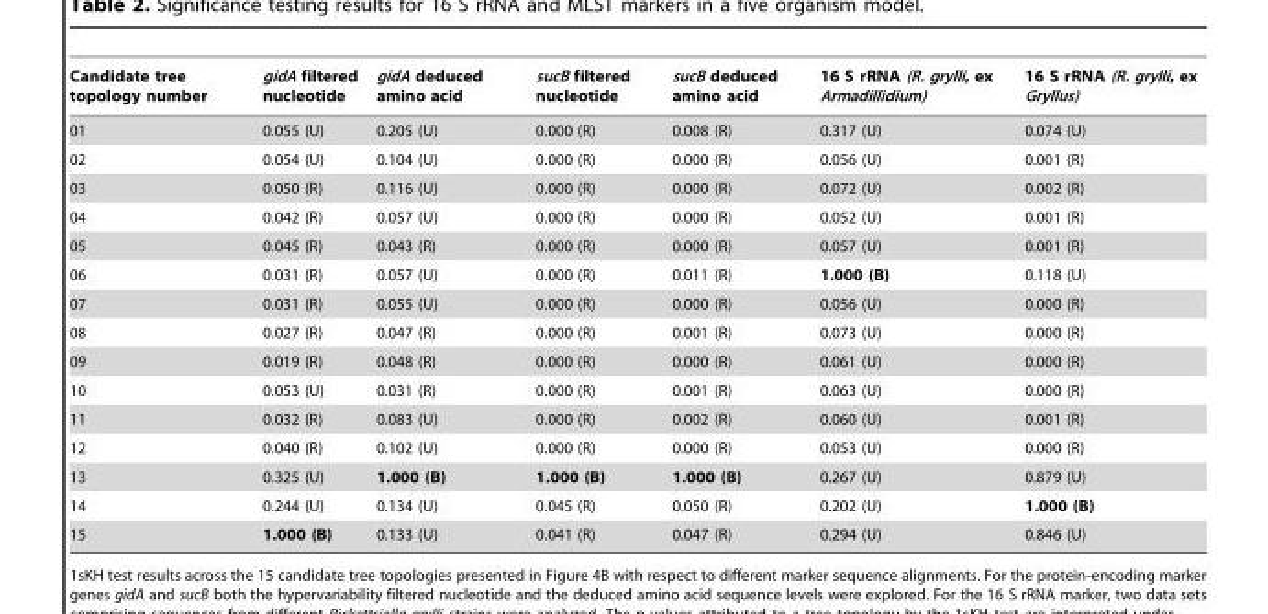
<table><thead><tr><td>Candidate tree topology number</td><td>gidA filtered nucleotide</td><td>gidA deduced amino acid</td><td>sucB filtered nucleotide</td><td>sucB deduced amino acid</td><td>16 S rRNA (R. grylli, ex Armadillidium)</td><td>16 S rRNA (R. grylli, ex Gryllus)</td></tr></thead><tbody><tr><td>01</td><td>0.055 (U)</td><td>0.205 (U)</td><td>0.000 (R)</td><td>0.008 (R)</td><td>0.317 (U)</td><td>0.074 (U)</td></tr><tr><td>02</td><td>0.054 (U)</td><td>0.104 (U)</td><td>0.000 (R)</td><td>0.000 (R)</td><td>0.056 (U)</td><td>0.001 (R)</td></tr><tr><td>03</td><td>0.050 (R)</td><td>0.116 (U)</td><td>0.000 (R)</td><td>0.000 (R)</td><td>0.072 (U)</td><td>0.002 (R)</td></tr><tr><td>04</td><td>0.042 (R)</td><td>0.057 (U)</td><td>0.000 (R)</td><td>0.000 (R)</td><td>0.052 (U)</td><td>0.001 (R)</td></tr><tr><td>05</td><td>0.045 (R)</td><td>0.043 (R)</td><td>0.000 (R)</td><td>0.000 (R)</td><td>0.057 (U)</td><td>0.001 (R)</td></tr><tr><td>06</td><td>0.031 (R)</td><td>0.057 (U)</td><td>0.000 (R)</td><td>0.011 (R)</td><td>1.000 (B)</td><td>0.118 (U)</td></tr><tr><td>07</td><td>0.031 (R)</td><td>0.055 (U)</td><td>0.000 (R)</td><td>0.000 (R)</td><td>0.056 (U)</td><td>0.000 (R)</td></tr><tr><td>08</td><td>0.027 (R)</td><td>0.047 (R)</td><td>0.000 (R)</td><td>0.001 (R)</td><td>0.073 (U)</td><td>0.000 (R)</td></tr><tr><td>09</td><td>0.019 (R)</td><td>0.048 (R)</td><td>0.000 (R)</td><td>0.000 (R)</td><td>0.061 (U)</td><td>0.000 (R)</td></tr><tr><td>10</td><td>0.053 (U)</td><td>0.031 (R)</td><td>0.000 (R)</td><td>0.001 (R)</td><td>0.063 (U)</td><td>0.000 (R)</td></tr><tr><td>11</td><td>0.032 (R)</td><td>0.083 (U)</td><td>0.000 (R)</td><td>0.002 (R)</td><td>0.060 (U)</td><td>0.001 (R)</td></tr><tr><td>12</td><td>0.040 (R)</td><td>0.102 (U)</td><td>0.000 (R)</td><td>0.000 (R)</td><td>0.053 (U)</td><td>0.000 (R)</td></tr><tr><td>13</td><td>0.325 (U)</td><td>1.000 (B)</td><td>1.000 (B)</td><td>1.000 (B)</td><td>0.267 (U)</td><td>0.879 (U)</td></tr><tr><td>14</td><td>0.244 (U)</td><td>0.134 (U)</td><td>0.045 (R)</td><td>0.050 (R)</td><td>0.202 (U)</td><td>1.000 (B)</td></tr><tr><td>15</td><td>1.000 (B)</td><td>0.133 (U)</td><td>0.041 (R)</td><td>0.047 (R)</td><td>0.294 (U)</td><td>0.846 (U)</td></tr></tbody></table>